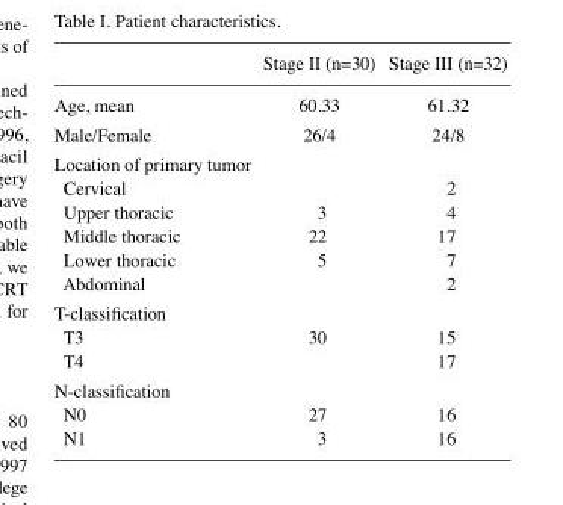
<table><thead><tr><td></td><td>Stage II (n=30)</td><td>Stage III (n=32)</td></tr></thead><tbody><tr><td>Age, mean</td><td>60.33</td><td>61.32</td></tr><tr><td>Male/Female</td><td>26/4</td><td>24/8</td></tr><tr><td colspan="3">Location of primary tumor</td></tr><tr><td>Cervical</td><td></td><td>2</td></tr><tr><td>Upper thoracic</td><td>3</td><td>4</td></tr><tr><td>Middle thoracic</td><td>22</td><td>17</td></tr><tr><td>Lower thoracic</td><td>5</td><td>7</td></tr><tr><td>Abdominal</td><td></td><td>2</td></tr><tr><td colspan="3">T-classification</td></tr><tr><td>T3</td><td>30</td><td>15</td></tr><tr><td>T4</td><td></td><td>17</td></tr><tr><td colspan="3">N-classification</td></tr><tr><td>N0</td><td>27</td><td>16</td></tr><tr><td>N1</td><td>3</td><td>16</td></tr></tbody></table>